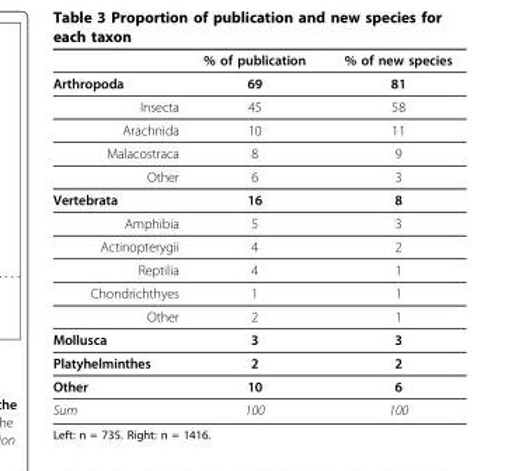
<table><thead><tr><td></td><td>% of publication</td><td>% of new species</td></tr></thead><tbody><tr><td>Arthropoda</td><td>69</td><td>81</td></tr><tr><td>Insecta</td><td>45</td><td>58</td></tr><tr><td>Arachnida</td><td>10</td><td>11</td></tr><tr><td>Malacostraca</td><td>8</td><td>9</td></tr><tr><td>Other</td><td>6</td><td>3</td></tr><tr><td>Vertebrata</td><td>16</td><td>8</td></tr><tr><td>Amphibia</td><td>5</td><td>3</td></tr><tr><td>Actinopterygii</td><td>4</td><td>2</td></tr><tr><td>Reptilia</td><td>4</td><td>1</td></tr><tr><td>Chondrichthyes</td><td>1</td><td>1</td></tr><tr><td>Other</td><td>2</td><td>1</td></tr><tr><td>Mollusca</td><td>3</td><td>3</td></tr><tr><td>Platyhelminthes</td><td>2</td><td>2</td></tr><tr><td>Other</td><td>10</td><td>6</td></tr><tr><td>Sum</td><td>100</td><td>100</td></tr></tbody></table>